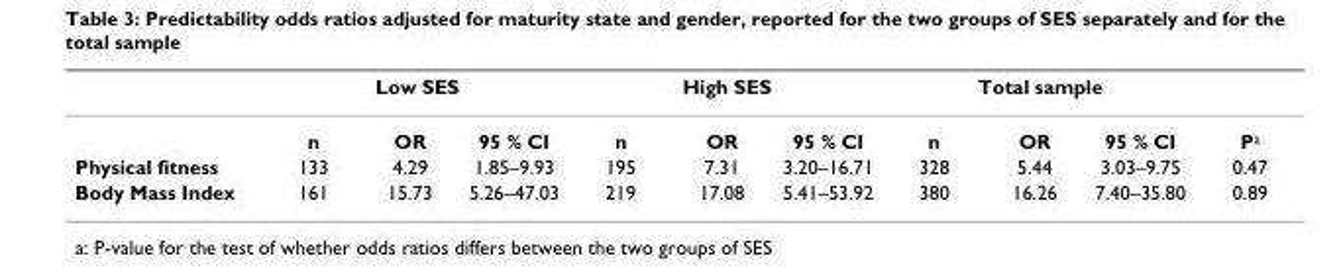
<table><thead><tr><td rowspan="2"></td><td colspan="3">Low SES</td><td colspan="3">High SES</td><td colspan="3">Total sample</td><td rowspan="2">Pa</td></tr><tr><td>n</td><td>OR</td><td>95 % CI</td><td>n</td><td>OR</td><td>95 % CI</td><td>n</td><td>OR</td><td>95 % CI</td></tr></thead><tbody><tr><td>Physical fitness</td><td>133</td><td>4.29</td><td>1.85–9.93</td><td>195</td><td>7.31</td><td>3.20–16.71</td><td>328</td><td>5.44</td><td>3.03–9.75</td><td>0.47</td></tr><tr><td>Body Mass Index</td><td>161</td><td>15.73</td><td>5.26–47.03</td><td>219</td><td>17.08</td><td>5.41–53.92</td><td>380</td><td>16.26</td><td>7.40–35.80</td><td>0.89</td></tr></tbody></table>